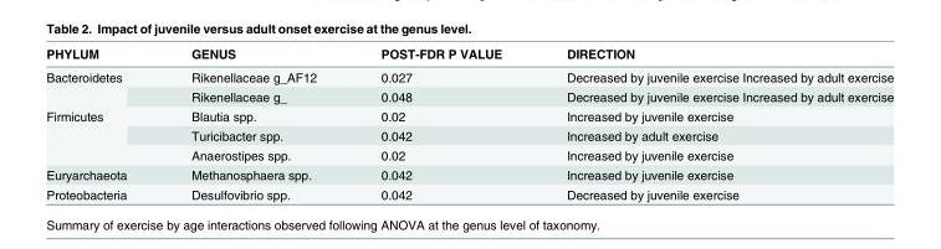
<table><thead><tr><td>PHYLUM</td><td>GENUS</td><td>POST-FDR P VALUE</td><td>DIRECTION</td></tr></thead><tbody><tr><td rowspan="2">Bacteroidetes</td><td>Rikenellaceae g_AF12</td><td>0.027</td><td>Decreased by juvenile exercise Increased by adult exercise</td></tr><tr><td>Rikenellaceae g_</td><td>0.048</td><td>Decreased by juvenile exercise Increased by adult exercise</td></tr><tr><td rowspan="3">Firmicutes</td><td>Blautia spp.</td><td>0.02</td><td>Increased by juvenile exercise</td></tr><tr><td>Turicibacter spp.</td><td>0.042</td><td>Increased by adult exercise</td></tr><tr><td>Anaerostipes spp.</td><td>0.02</td><td>Increased by juvenile exercise</td></tr><tr><td>Euryarchaeota</td><td>Methanosphaera spp.</td><td>0.042</td><td>Increased by juvenile exercise</td></tr><tr><td>Proteobacteria</td><td>Desulfovibrio spp.</td><td>0.042</td><td>Decreased by juvenile exercise</td></tr></tbody></table>